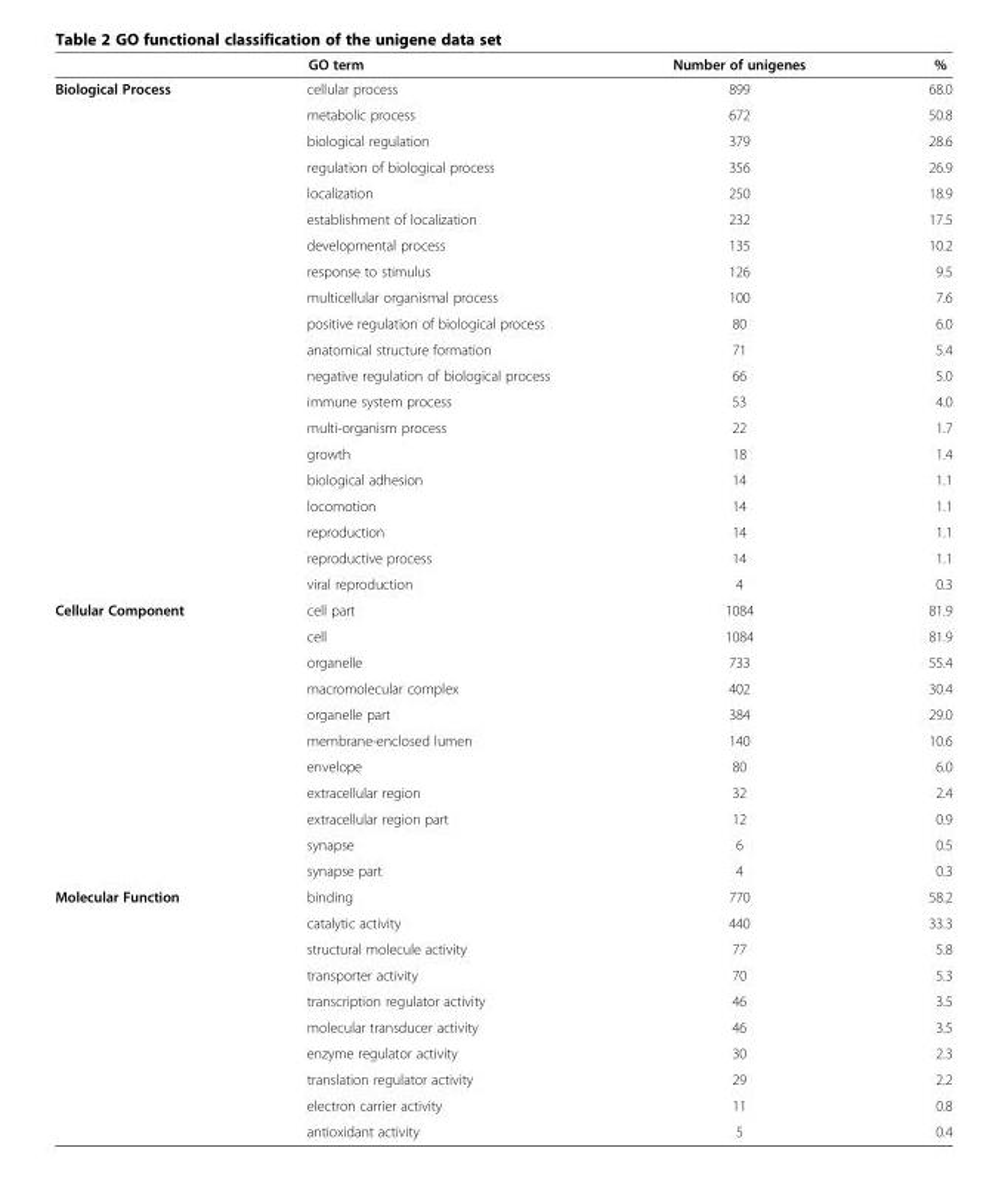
<table><thead><tr><td></td><td>GO term</td><td>Number of unigenes</td><td>%</td></tr></thead><tbody><tr><td rowspan="20">Biological Process</td><td>cellular process</td><td>899</td><td>68.0</td></tr><tr><td>metabolic process</td><td>672</td><td>50.8</td></tr><tr><td>biological regulation</td><td>379</td><td>28.6</td></tr><tr><td>regulation of biological process</td><td>356</td><td>26.9</td></tr><tr><td>localization</td><td>250</td><td>18.9</td></tr><tr><td>establishment of localization</td><td>232</td><td>17.5</td></tr><tr><td>developmental process</td><td>135</td><td>10.2</td></tr><tr><td>response to stimulus</td><td>126</td><td>9.5</td></tr><tr><td>multicellular organismal process</td><td>100</td><td>7.6</td></tr><tr><td>positive regulation of biological process</td><td>80</td><td>6.0</td></tr><tr><td>anatomical structure formation</td><td>71</td><td>5.4</td></tr><tr><td>negative regulation of biological process</td><td>66</td><td>5.0</td></tr><tr><td>immune system process</td><td>53</td><td>4.0</td></tr><tr><td>multi-organism process</td><td>22</td><td>1.7</td></tr><tr><td>growth</td><td>18</td><td>1.4</td></tr><tr><td>biological adhesion</td><td>14</td><td>1.1</td></tr><tr><td>locomotion</td><td>14</td><td>1.1</td></tr><tr><td>reproduction</td><td>14</td><td>1.1</td></tr><tr><td>reproductive process</td><td>14</td><td>1.1</td></tr><tr><td>viral reproduction</td><td>4</td><td>0.3</td></tr><tr><td rowspan="11">Cellular Component</td><td>cell part</td><td>1084</td><td>81.9</td></tr><tr><td>cell</td><td>1084</td><td>81.9</td></tr><tr><td>organelle</td><td>733</td><td>55.4</td></tr><tr><td>macromolecular complex</td><td>402</td><td>30.4</td></tr><tr><td>organelle part</td><td>384</td><td>29.0</td></tr><tr><td>membrane-enclosed lumen</td><td>140</td><td>10.6</td></tr><tr><td>envelope</td><td>80</td><td>6.0</td></tr><tr><td>extracellular region</td><td>32</td><td>2.4</td></tr><tr><td>extracellular region part</td><td>12</td><td>0.9</td></tr><tr><td>synapse</td><td>6</td><td>0.5</td></tr><tr><td>synapse part</td><td>4</td><td>0.3</td></tr><tr><td rowspan="10">Molecular Function</td><td>binding</td><td>770</td><td>58.2</td></tr><tr><td>catalytic activity</td><td>440</td><td>33.3</td></tr><tr><td>structural molecule activity</td><td>77</td><td>5.8</td></tr><tr><td>transporter activity</td><td>70</td><td>5.3</td></tr><tr><td>transcription regulator activity</td><td>46</td><td>3.5</td></tr><tr><td>molecular transducer activity</td><td>46</td><td>3.5</td></tr><tr><td>enzyme regulator activity</td><td>30</td><td>2.3</td></tr><tr><td>translation regulator activity</td><td>29</td><td>2.2</td></tr><tr><td>electron carrier activity</td><td>11</td><td>0.8</td></tr><tr><td>antioxidant activity</td><td>5</td><td>0.4</td></tr></tbody></table>